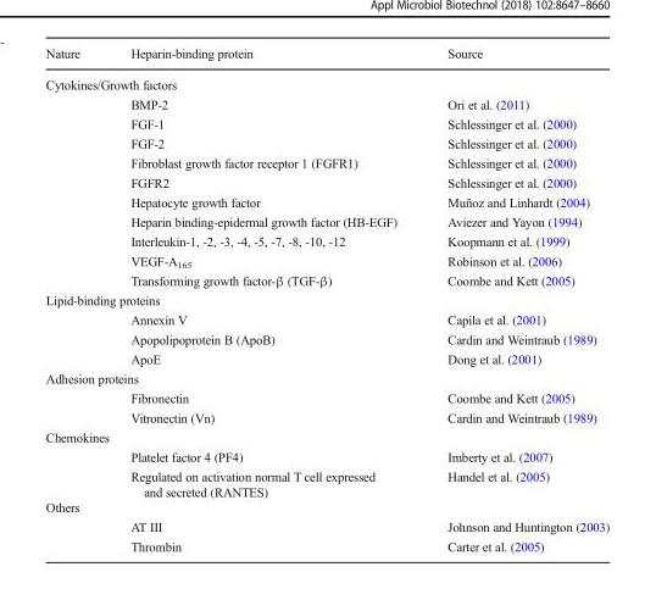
<table><thead><tr><td>Nature</td><td>Heparin-binding protein</td><td>Source</td></tr></thead><tbody><tr><td colspan="3">Cytokines/Growth factors</td></tr><tr><td></td><td>BMP-2</td><td>Ori et al. (2011)</td></tr><tr><td></td><td>FGF-1</td><td>Schlessinger et al. (2000)</td></tr><tr><td></td><td>FGF-2</td><td>Schlessinger et al. (2000)</td></tr><tr><td></td><td>Fibroblast growth factor receptor 1 (FGFR1)</td><td>Schlessinger et al. (2000)</td></tr><tr><td></td><td>FGFR2</td><td>Schlessinger et al. (2000)</td></tr><tr><td></td><td>Hepatocyte growth factor</td><td>Muñoz and Linhardt (2004)</td></tr><tr><td></td><td>Heparin binding-epidermal growth factor (HB-EGF)</td><td>Aviezer and Yayon (1994)</td></tr><tr><td></td><td>Interleukin-1, -2, -3, -4, -5, -7, -8, -10, -12</td><td>Koopmann et al. (1999)</td></tr><tr><td></td><td>VEGF-A<sub>165</sub></td><td>Robinson et al. (2006)</td></tr><tr><td></td><td>Transforming growth factor-β (TGF-β)</td><td>Coombe and Kett (2005)</td></tr><tr><td colspan="3">Lipid-binding proteins</td></tr><tr><td></td><td>Annexin V</td><td>Capila et al. (2001)</td></tr><tr><td></td><td>Apopolipoprotein B (ApoB)</td><td>Cardin and Weintraub (1989)</td></tr><tr><td></td><td>ApoE</td><td>Dong et al. (2001)</td></tr><tr><td colspan="3">Adhesion proteins</td></tr><tr><td></td><td>Fibronectin</td><td>Coombe and Kett (2005)</td></tr><tr><td></td><td>Vitronectin (Vn)</td><td>Cardin and Weintraub (1989)</td></tr><tr><td colspan="3">Chemokines</td></tr><tr><td></td><td>Platelet factor 4 (PF4)</td><td>Imberty et al. (2007)</td></tr><tr><td></td><td>Regulated on activation normal T cell expressed and secreted (RANTES)</td><td>Handel et al. (2005)</td></tr><tr><td colspan="3">Others</td></tr><tr><td></td><td>AT III</td><td>Johnson and Huntington (2003)</td></tr><tr><td></td><td>Thrombin</td><td>Carter et al. (2005)</td></tr></tbody></table>